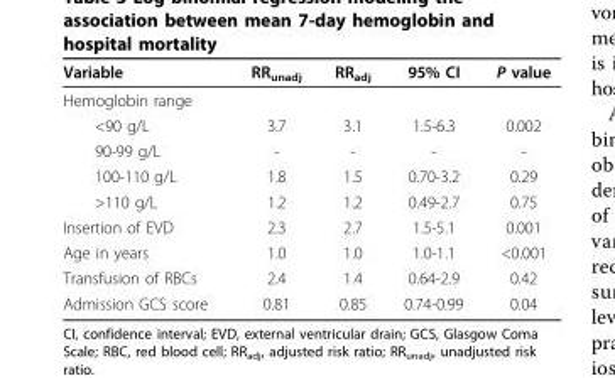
<table><thead><tr><td>Variable</td><td>RR<sub>unadj</sub></td><td>RR<sub>adj</sub></td><td>95% CI</td><td>P value</td></tr></thead><tbody><tr><td colspan="5">Hemoglobin range</td></tr><tr><td>&lt;90 g/L</td><td>3.7</td><td>3.1</td><td>1.5-6.3</td><td>0.002</td></tr><tr><td>90-99 g/L</td><td>-</td><td>-</td><td>-</td><td>-</td></tr><tr><td>100-110 g/L</td><td>1.8</td><td>1.5</td><td>0.70-3.2</td><td>0.29</td></tr><tr><td>&gt;110 g/L</td><td>1.2</td><td>1.2</td><td>0.49-2.7</td><td>0.75</td></tr><tr><td>Insertion of EVD</td><td>2.3</td><td>2.7</td><td>1.5-5.1</td><td>0.001</td></tr><tr><td>Age in years</td><td>1.0</td><td>1.0</td><td>1.0-1.1</td><td>&lt;0.001</td></tr><tr><td>Transfusion of RBCs</td><td>2.4</td><td>1.4</td><td>0.64-2.9</td><td>0.42</td></tr><tr><td>Admission GCS score</td><td>0.81</td><td>0.85</td><td>0.74-0.99</td><td>0.04</td></tr></tbody></table>